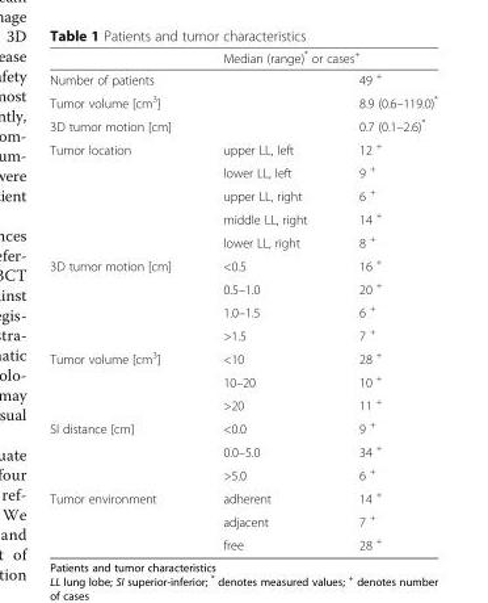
<table><thead><tr><td rowspan="2">Number of patients</td><td colspan="2">Median (range)* or cases<sup>+</sup></td></tr><tr><td></td><td>49 <sup>+</sup></td></tr></thead><tbody><tr><td>Tumor volume [cm<sup>3</sup>]</td><td></td><td>8.9 (0.6–119.0)*</td></tr><tr><td>3D tumor motion [cm]</td><td></td><td>0.7 (0.1–2.6)*</td></tr><tr><td rowspan="5">Tumor location</td><td>upper LL, left</td><td>12 <sup>+</sup></td></tr><tr><td>lower LL, left</td><td>9 <sup>+</sup></td></tr><tr><td>upper LL, right</td><td>6 <sup>+</sup></td></tr><tr><td>middle LL, right</td><td>14 <sup>+</sup></td></tr><tr><td>lower LL, right</td><td>8 <sup>+</sup></td></tr><tr><td rowspan="4">3D tumor motion [cm]</td><td>&lt;0.5</td><td>16 <sup>+</sup></td></tr><tr><td>0.5–1.0</td><td>20 <sup>+</sup></td></tr><tr><td>1.0–1.5</td><td>6 <sup>+</sup></td></tr><tr><td>&gt;1.5</td><td>7 <sup>+</sup></td></tr><tr><td rowspan="3">Tumor volume [cm<sup>3</sup>]</td><td>&lt;10</td><td>28 <sup>+</sup></td></tr><tr><td>10–20</td><td>10 <sup>+</sup></td></tr><tr><td>&gt;20</td><td>11 <sup>+</sup></td></tr><tr><td rowspan="3">SI distance [cm]</td><td>&lt;0.0</td><td>9 <sup>+</sup></td></tr><tr><td>0.0–5.0</td><td>34 <sup>+</sup></td></tr><tr><td>&gt;5.0</td><td>6 <sup>+</sup></td></tr><tr><td rowspan="3">Tumor environment</td><td>adherent</td><td>14 <sup>+</sup></td></tr><tr><td>adjacent</td><td>7 <sup>+</sup></td></tr><tr><td>free</td><td>28 <sup>+</sup></td></tr></tbody></table>